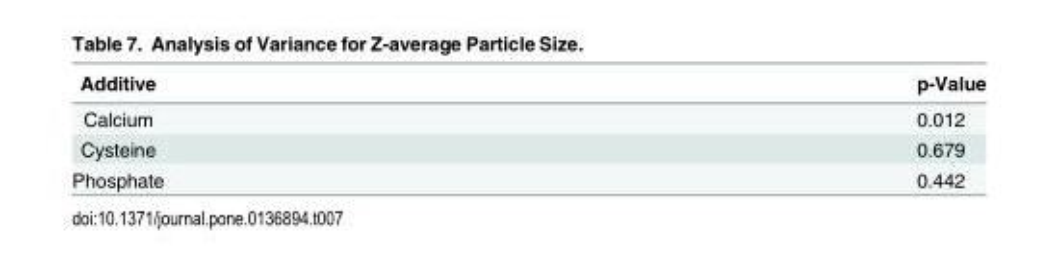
<table><thead><tr><td>Additive</td><td>p-Value</td></tr></thead><tbody><tr><td>Calcium</td><td>0.012</td></tr><tr><td>Cysteine</td><td>0.679</td></tr><tr><td>Phosphate</td><td>0.442</td></tr></tbody></table>